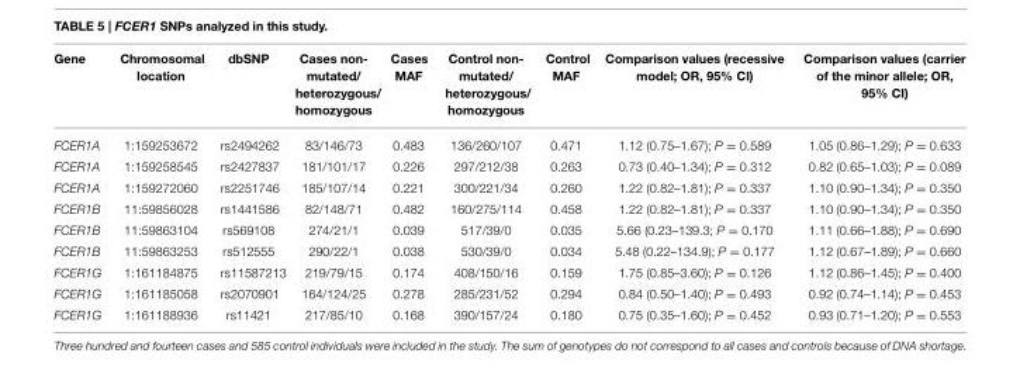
<table><thead><tr><td>Gene</td><td>Chromosomal location</td><td>dbSNP</td><td>Cases non- mutated/ heterozygous/ homozygous</td><td>Cases MAF</td><td>Control non- mutated/ heterozygous/ homozygous</td><td>Control MAF</td><td>Comparison values (recessive model; OR, 95% CI)</td><td>Comparison values (carrier of the minor allele; OR, 95% CI)</td></tr></thead><tbody><tr><td>FCER1A</td><td>1:159253672</td><td>rs2494262</td><td>83/146/73</td><td>0.483</td><td>136/260/107</td><td>0.471</td><td>1.12 (0.75–1.67); P = 0.589</td><td>1.05 (0.86–1.29); P = 0.633</td></tr><tr><td>FCER1A</td><td>1:159258545</td><td>rs2427837</td><td>181/101/17</td><td>0.226</td><td>297/212/38</td><td>0.263</td><td>0.73 (0.40–1.34); P = 0.312</td><td>0.82 (0.65–1.03); P = 0.089</td></tr><tr><td>FCER1A</td><td>1:159272060</td><td>rs2251746</td><td>185/107/14</td><td>0.221</td><td>300/221/34</td><td>0.260</td><td>1.22 (0.82–1.81); P = 0.337</td><td>1.10 (0.90–1.34); P = 0.350</td></tr><tr><td>FCER1B</td><td>11:59856028</td><td>rs1441586</td><td>82/148/71</td><td>0.482</td><td>160/275/114</td><td>0.458</td><td>1.22 (0.82–1.81); P = 0.337</td><td>1.10 (0.90–1.34); P = 0.350</td></tr><tr><td>FCER1B</td><td>11:59863104</td><td>rs569108</td><td>274/21/1</td><td>0.039</td><td>517/39/0</td><td>0.035</td><td>5.66 (0.23–139.3; P = 0.170</td><td>1.11 (0.66–1.88); P = 0.690</td></tr><tr><td>FCER1B</td><td>11:59863253</td><td>rs512555</td><td>290/22/1</td><td>0.038</td><td>530/39/0</td><td>0.034</td><td>5.48 (0.22–134.9); P = 0.177</td><td>1.12 (0.67–1.89); P = 0.660</td></tr><tr><td>FCER1G</td><td>1:161184875</td><td>rs11587213</td><td>219/79/15</td><td>0.174</td><td>408/150/16</td><td>0.159</td><td>1.75 (0.85–3.60); P = 0.126</td><td>1.12 (0.86–1.45); P = 0.400</td></tr><tr><td>FCER1G</td><td>1:161185058</td><td>rs2070901</td><td>164/124/25</td><td>0.278</td><td>285/231/52</td><td>0.294</td><td>0.84 (0.50–1.40); P = 0.493</td><td>0.92 (0.74–1.14); P = 0.453</td></tr><tr><td>FCER1G</td><td>1:161188936</td><td>rs11421</td><td>217/85/10</td><td>0.168</td><td>390/157/24</td><td>0.180</td><td>0.75 (0.35–1.60); P = 0.452</td><td>0.93 (0.71–1.20); P = 0.553</td></tr></tbody></table>